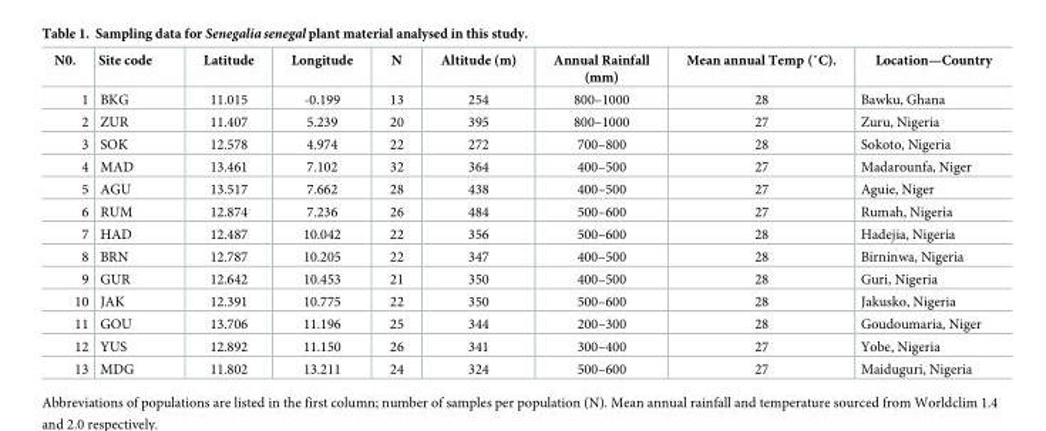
<table><thead><tr><td>N0.</td><td>Site code</td><td>Latitude</td><td>Longitude</td><td>N</td><td>Altitude (m)</td><td>Annual Rainfall (mm)</td><td>Mean annual Temp (˚C).</td><td>Location—Country</td></tr></thead><tbody><tr><td>1</td><td>BKG</td><td>11.015</td><td>-0.199</td><td>13</td><td>254</td><td>800–1000</td><td>28</td><td>Bawku, Ghana</td></tr><tr><td>2</td><td>ZUR</td><td>11.407</td><td>5.239</td><td>20</td><td>395</td><td>800–1000</td><td>27</td><td>Zuru, Nigeria</td></tr><tr><td>3</td><td>SOK</td><td>12.578</td><td>4.974</td><td>22</td><td>272</td><td>700–800</td><td>28</td><td>Sokoto, Nigeria</td></tr><tr><td>4</td><td>MAD</td><td>13.461</td><td>7.102</td><td>32</td><td>364</td><td>400–500</td><td>27</td><td>Madarounfa, Niger</td></tr><tr><td>5</td><td>AGU</td><td>13.517</td><td>7.662</td><td>28</td><td>438</td><td>400–500</td><td>27</td><td>Aguie, Niger</td></tr><tr><td>6</td><td>RUM</td><td>12.874</td><td>7.236</td><td>26</td><td>484</td><td>500–600</td><td>27</td><td>Rumah, Nigeria</td></tr><tr><td>7</td><td>HAD</td><td>12.487</td><td>10.042</td><td>22</td><td>356</td><td>500–600</td><td>28</td><td>Hadejia, Nigeria</td></tr><tr><td>8</td><td>BRN</td><td>12.787</td><td>10.205</td><td>22</td><td>347</td><td>400–500</td><td>28</td><td>Birninwa, Nigeria</td></tr><tr><td>9</td><td>GUR</td><td>12.642</td><td>10.453</td><td>21</td><td>350</td><td>400–500</td><td>28</td><td>Guri, Nigeria</td></tr><tr><td>10</td><td>JAK</td><td>12.391</td><td>10.775</td><td>22</td><td>350</td><td>500–600</td><td>28</td><td>Jakusko, Nigeria</td></tr><tr><td>11</td><td>GOU</td><td>13.706</td><td>11.196</td><td>25</td><td>344</td><td>200–300</td><td>28</td><td>Goudoumaria, Niger</td></tr><tr><td>12</td><td>YUS</td><td>12.892</td><td>11.150</td><td>26</td><td>341</td><td>300–400</td><td>27</td><td>Yobe, Nigeria</td></tr><tr><td>13</td><td>MDG</td><td>11.802</td><td>13.211</td><td>24</td><td>324</td><td>500–600</td><td>27</td><td>Maiduguri, Nigeria</td></tr></tbody></table>